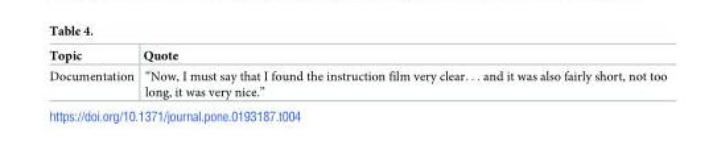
<table><thead><tr><td>Topic</td><td>Quote</td></tr></thead><tbody><tr><td>Documentation</td><td>“Now, I must say that I found the instruction film very clear. . . and it was also fairly short, not too long, it was very nice.”</td></tr></tbody></table>